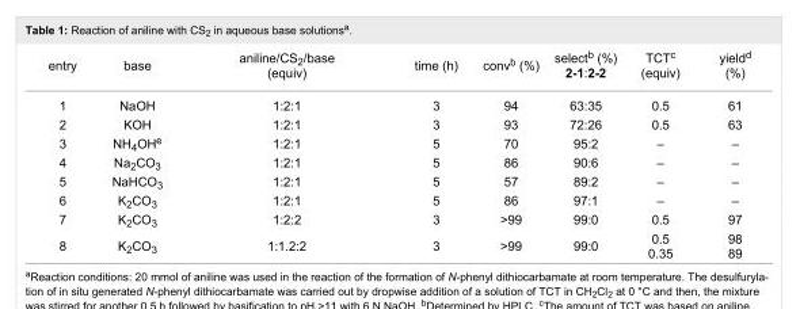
<table><tbody><tr><td>entry</td><td>base</td><td>aniline/CS<sub>2</sub>/base (equiv)</td><td>time (h)</td><td>conv<sup>b</sup> (%)</td><td>select<sup>b</sup> (%) 2-1:2-2</td><td>TCT<sup>c</sup> (equiv)</td><td>yield<sup>d</sup> (%)</td></tr><tr><td>1</td><td>NaOH</td><td>1:2:1</td><td>3</td><td>94</td><td>63:35</td><td>0.5</td><td>61</td></tr><tr><td>2</td><td>KOH</td><td>1:2:1</td><td>3</td><td>93</td><td>72:26</td><td>0.5</td><td>63</td></tr><tr><td>3</td><td>NH<sub>4</sub>OH<sup>e</sup></td><td>1:2:1</td><td>5</td><td>70</td><td>95:2</td><td>–</td><td>–</td></tr><tr><td>4</td><td>Na<sub>2</sub>CO<sub>3</sub></td><td>1:2:1</td><td>5</td><td>86</td><td>90:6</td><td>–</td><td>–</td></tr><tr><td>5</td><td>NaHCO<sub>3</sub></td><td>1:2:1</td><td>5</td><td>57</td><td>89:2</td><td>–</td><td>–</td></tr><tr><td>6</td><td>K<sub>2</sub>CO<sub>3</sub></td><td>1:2:1</td><td>5</td><td>86</td><td>97:1</td><td>–</td><td>–</td></tr><tr><td>7</td><td>K<sub>2</sub>CO<sub>3</sub></td><td>1:2:2</td><td>3</td><td>&gt;99</td><td>99:0</td><td>0.5</td><td>97</td></tr><tr><td>8</td><td>K<sub>2</sub>CO<sub>3</sub></td><td>1:1.2:2</td><td>3</td><td>&gt;99</td><td>99:0</td><td>0.5 0.35</td><td>98 89</td></tr></tbody></table>